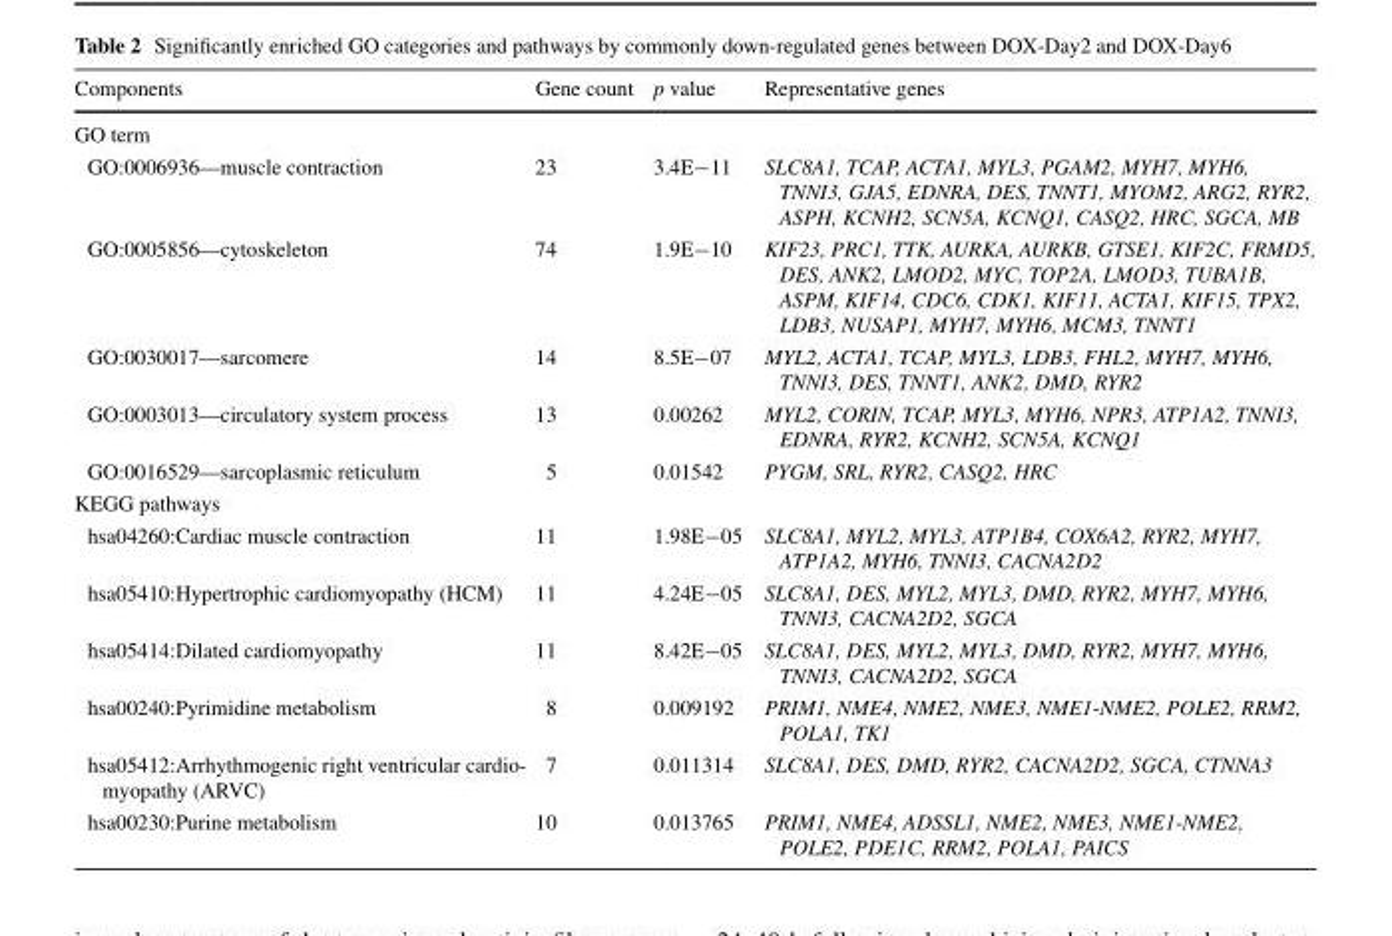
<table><thead><tr><td>Components</td><td>Gene count</td><td>p value</td><td>Representative genes</td></tr></thead><tbody><tr><td colspan="4">GO term</td></tr><tr><td>GO:0006936—muscle contraction</td><td>23</td><td>3.4E−11</td><td>SLC8A1, TCAP, ACTA1, MYL3, PGAM2, MYH7, MYH6, TNNI3, GJA5, EDNRA, DES, TNNT1, MYOM2, ARG2, RYR2, ASPH, KCNH2, SCN5A, KCNQ1, CASQ2, HRC, SGCA, MB</td></tr><tr><td>GO:0005856—cytoskeleton</td><td>74</td><td>1.9E−10</td><td>KIF23, PRC1, TTK, AURKA, AURKB, GTSE1, KIF2C, FRMD5, DES, ANK2, LMOD2, MYC, TOP2A, LMOD3, TUBA1B, ASPM, KIF14, CDC6, CDK1, KIF11, ACTA1, KIF15, TPX2, LDB3, NUSAP1, MYH7, MYH6, MCM3, TNNT1</td></tr><tr><td>GO:0030017—sarcomere</td><td>14</td><td>8.5E−07</td><td>MYL2, ACTA1, TCAP, MYL3, LDB3, FHL2, MYH7, MYH6, TNNI3, DES, TNNT1, ANK2, DMD, RYR2</td></tr><tr><td>GO:0003013—circulatory system process</td><td>13</td><td>0.00262</td><td>MYL2, CORIN, TCAP, MYL3, MYH6, NPR3, ATP1A2, TNNI3, EDNRA, RYR2, KCNH2, SCN5A, KCNQ1</td></tr><tr><td>GO:0016529—sarcoplasmic reticulum</td><td>5</td><td>0.01542</td><td>PYGM, SRL, RYR2, CASQ2, HRC</td></tr><tr><td colspan="4">KEGG pathways</td></tr><tr><td>hsa04260:Cardiac muscle contraction</td><td>11</td><td>1.98E−05</td><td>SLC8A1, MYL2, MYL3, ATP1B4, COX6A2, RYR2, MYH7, ATP1A2, MYH6, TNNI3, CACNA2D2</td></tr><tr><td>hsa05410:Hypertrophic cardiomyopathy (HCM)</td><td>11</td><td>4.24E−05</td><td>SLC8A1, DES, MYL2, MYL3, DMD, RYR2, MYH7, MYH6, TNNI3, CACNA2D2, SGCA</td></tr><tr><td>hsa05414:Dilated cardiomyopathy</td><td>11</td><td>8.42E−05</td><td>SLC8A1, DES, MYL2, MYL3, DMD, RYR2, MYH7, MYH6, TNNI3, CACNA2D2, SGCA</td></tr><tr><td>hsa00240:Pyrimidine metabolism</td><td>8</td><td>0.009192</td><td>PRIM1, NME4, NME2, NME3, NME1-NME2, POLE2, RRM2, POLA1, TK1</td></tr><tr><td>hsa05412:Arrhythmogenic right ventricular cardio- myopathy (ARVC)</td><td>7</td><td>0.011314</td><td>SLC8A1, DES, DMD, RYR2, CACNA2D2, SGCA, CTNNA3</td></tr><tr><td>hsa00230:Purine metabolism</td><td>10</td><td>0.013765</td><td>PRIM1, NME4, ADSSL1, NME2, NME3, NME1-NME2, POLE2, PDE1C, RRM2, POLA1, PAICS</td></tr></tbody></table>